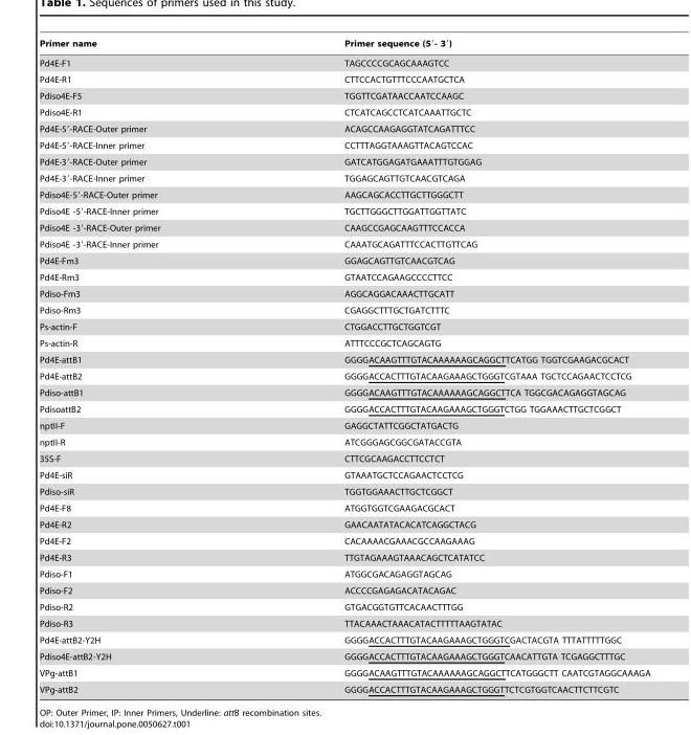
<table><thead><tr><td>Primer name</td><td>Primer sequence (5′- 3′)</td></tr></thead><tbody><tr><td>Pd4E-F1</td><td>TAGCCCCGCAGCAAAGTCC</td></tr><tr><td>Pd4E-R1</td><td>CTTCCACTGTTTCCCAATGCTCA</td></tr><tr><td>Pdiso4E-F5</td><td>TGGTTCGATAACCAATCCAAGC</td></tr><tr><td>Pdiso4E-R1</td><td>CTCATCAGCCTCATCAAATTGCTC</td></tr><tr><td>Pd4E-5′-RACE-Outer primer</td><td>ACAGCCAAGAGGTATCAGATTTCC</td></tr><tr><td>Pd4E-5′-RACE-Inner primer</td><td>CCTTTAGGTAAAGTTACAGTCCAC</td></tr><tr><td>Pd4E-3′-RACE-Outer primer</td><td>GATCATGGAGATGAAATTTGTGGAG</td></tr><tr><td>Pd4E-3′-RACE-Inner primer</td><td>TGGAGCAGTTGTCAACGTCAGA</td></tr><tr><td>Pdiso4E-5′-RACE-Outer primer</td><td>AAGCAGCACCTTGCTTGGGCTT</td></tr><tr><td>Pdiso4E -5′-RACE-Inner primer</td><td>TGCTTGGGCTTGGATTGGTTATC</td></tr><tr><td>Pdiso4E -3′-RACE-Outer primer</td><td>CAAGCCGAGCAAGTTTCCACCA</td></tr><tr><td>Pdiso4E -3′-RACE-Inner primer</td><td>CAAATGCAGATTTCCACTTGTTCAG</td></tr><tr><td>Pd4E-Fm3</td><td>GGAGCAGTTGTCAACGTCAG</td></tr><tr><td>Pd4E-Rm3</td><td>GTAATCCAGAAGCCCCTTCC</td></tr><tr><td>Pdiso-Fm3</td><td>AGGCAGGACAAACTTGCATT</td></tr><tr><td>Pdiso-Rm3</td><td>CGAGGCTTTGCTGATCTTTC</td></tr><tr><td>Ps-actin-F</td><td>CTGGACCTTGCTGGTCGT</td></tr><tr><td>Ps-actin-R</td><td>ATTTCCCGCTCAGCAGTG</td></tr><tr><td>Pd4E-attB1</td><td>GGGGACAAGTTTGTACAAAAAAGCAGGCTTCATGG TGGTCGAAGACGCACT</td></tr><tr><td>Pd4E-attB2</td><td>GGGGACCACTTTGTACAAGAAAGCTGGGTCGTAAA TGCTCCAGAACTCCTCG</td></tr><tr><td>Pdiso-attB1</td><td>GGGGACAAGTTTGTACAAAAAAGCAGGCTTCA TGGCGACAGAGGTAGCAG</td></tr><tr><td>PdisoattB2</td><td>GGGGACCACTTTGTACAAGAAAGCTGGGTCTGG TGGAAACTTGCTCGGCT</td></tr><tr><td>nptII-F</td><td>GAGGCTATTCGGCTATGACTG</td></tr><tr><td>nptII-R</td><td>ATCGGGAGCGGCGATACCGTA</td></tr><tr><td>35S-F</td><td>CTTCGCAAGACCTTCCTCT</td></tr><tr><td>Pd4E-siR</td><td>GTAAATGCTCCAGAACTCCTCG</td></tr><tr><td>Pdiso-siR</td><td>TGGTGGAAACTTGCTCGGCT</td></tr><tr><td>Pd4E-F8</td><td>ATGGTGGTCGAAGACGCACT</td></tr><tr><td>Pd4E-R2</td><td>GAACAATATACACATCAGGCTACG</td></tr><tr><td>Pd4E-F2</td><td>CACAAAACGAAACGCCAAGAAAG</td></tr><tr><td>Pd4E-R3</td><td>TTGTAGAAAGTAAACAGCTCATATCC</td></tr><tr><td>Pdiso-F1</td><td>ATGGCGACAGAGGTAGCAG</td></tr><tr><td>Pdiso-F2</td><td>ACCCCGAGAGACATACAGAC</td></tr><tr><td>Pdiso-R2</td><td>GTGACGGTGTTCACAACTTTGG</td></tr><tr><td>Pdiso-R3</td><td>TTACAAACTAAACATACTTTTTAAGTATAC</td></tr><tr><td>Pd4E-attB2-Y2H</td><td>GGGGACCACTTTGTACAAGAAAGCTGGGTCGACTACGTA TTTATTTTTGGC</td></tr><tr><td>Pdiso4E-attB2-Y2H</td><td>GGGGACCACTTTGTACAAGAAAGCTGGGTCAACATTGTA TCGAGGCTTTGC</td></tr><tr><td>VPg-attB1</td><td>GGGGACAAGTTTGTACAAAAAAGCAGGCTTCATGGGCTT CAATCGTAGGCAAAGA</td></tr><tr><td>VPg-attB2</td><td>GGGGACCACTTTGTACAAGAAAGCTGGGTTCTCGTGGTCAACTTCTTCGTC</td></tr></tbody></table>